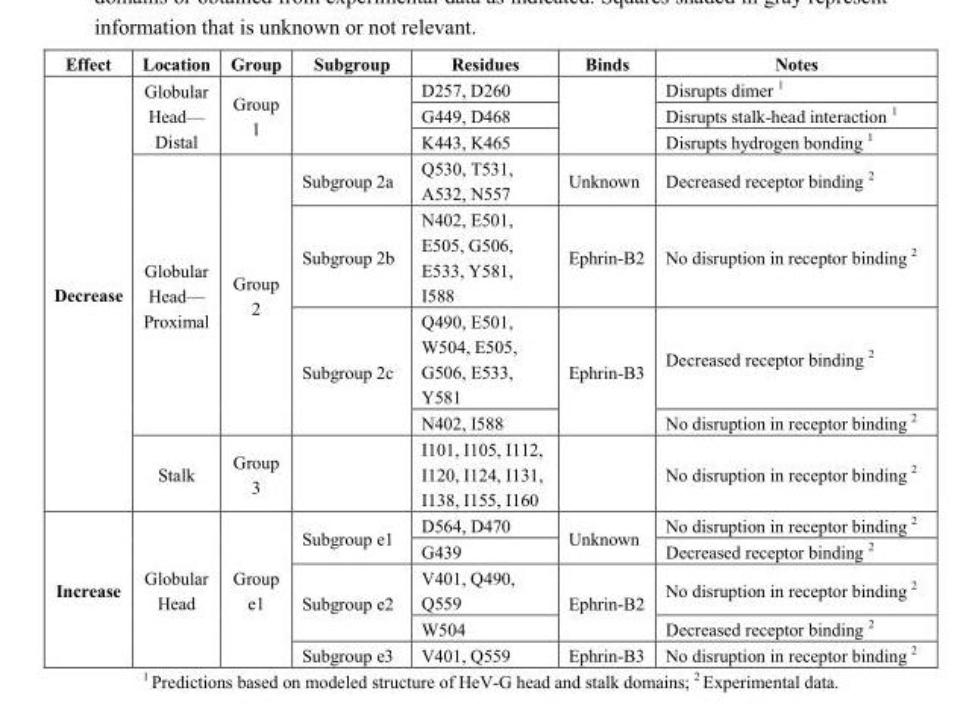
<table><thead><tr><td>Effect</td><td>Location</td><td>Group</td><td>Subgroup</td><td>Residues</td><td>Binds</td><td>Notes</td></tr></thead><tbody><tr><td rowspan="8">Decrease</td><td rowspan="3">Globular Head— Distal</td><td rowspan="3">Group 1</td><td rowspan="3"></td><td>D257, D260</td><td rowspan="3"></td><td>Disrupts dimer <sup>1</sup></td></tr><tr><td>G449, D468</td><td>Disrupts stalk-head interaction <sup>1</sup></td></tr><tr><td>K443, K465</td><td>Disrupts hydrogen bonding <sup>1</sup></td></tr><tr><td rowspan="4">Globular Head— Proximal</td><td rowspan="4">Group 2</td><td>Subgroup 2a</td><td>Q530, T531, A532, N557</td><td>Unknown</td><td>Decreased receptor binding <sup>2</sup></td></tr><tr><td>Subgroup 2b</td><td>N402, E501, E505, G506, E533, Y581, I588</td><td>Ephrin-B2</td><td>No disruption in receptor binding <sup>2</sup></td></tr><tr><td rowspan="2">Subgroup 2c</td><td>Q490, E501, W504, E505, G506, E533, Y581</td><td rowspan="2">Ephrin-B3</td><td>Decreased receptor binding <sup>2</sup></td></tr><tr><td>N402, I588</td><td>No disruption in receptor binding <sup>2</sup></td></tr><tr><td>Stalk</td><td>Group 3</td><td></td><td>I101, I105, I112, I120, I124, I131, I138, I155, I160</td><td></td><td>No disruption in receptor binding <sup>2</sup></td></tr><tr><td rowspan="5">Increase</td><td rowspan="5">Globular Head</td><td rowspan="5">Group e1</td><td rowspan="2">Subgroup e1</td><td>D564, D470</td><td rowspan="2">Unknown</td><td>No disruption in receptor binding <sup>2</sup></td></tr><tr><td>G439</td><td>Decreased receptor binding <sup>2</sup></td></tr><tr><td rowspan="2">Subgroup e2</td><td>V401, Q490, Q559</td><td rowspan="2">Ephrin-B2</td><td>No disruption in receptor binding <sup>2</sup></td></tr><tr><td>W504</td><td>Decreased receptor binding <sup>2</sup></td></tr><tr><td>Subgroup e3</td><td>V401, Q559</td><td>Ephrin-B3</td><td>No disruption in receptor binding <sup>2</sup></td></tr></tbody></table>